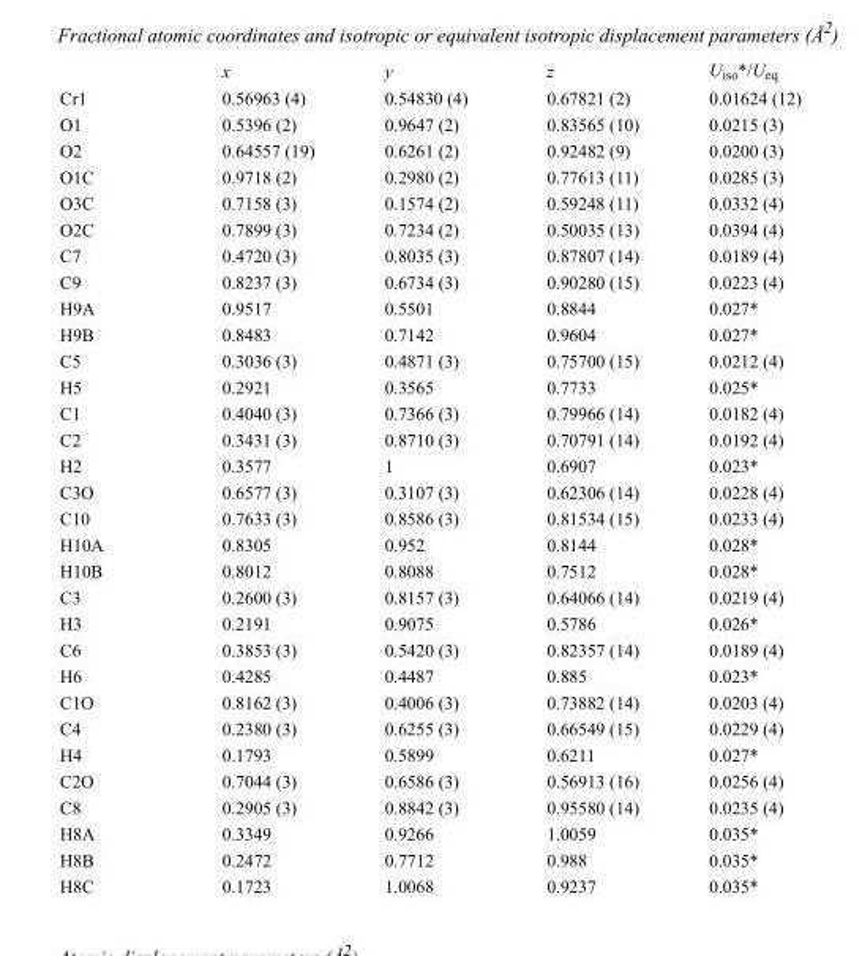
<table><thead><tr><td></td><td>x</td><td>y</td><td>z</td><td>U<sub>iso</sub>*/U<sub>eq</sub></td></tr></thead><tbody><tr><td>Cr1</td><td>0.56963 (4)</td><td>0.54830 (4)</td><td>0.67821 (2)</td><td>0.01624 (12)</td></tr><tr><td>O1</td><td>0.5396 (2)</td><td>0.9647 (2)</td><td>0.83565 (10)</td><td>0.0215 (3)</td></tr><tr><td>O2</td><td>0.64557 (19)</td><td>0.6261 (2)</td><td>0.92482 (9)</td><td>0.0200 (3)</td></tr><tr><td>O1C</td><td>0.9718 (2)</td><td>0.2980 (2)</td><td>0.77613 (11)</td><td>0.0285 (3)</td></tr><tr><td>O3C</td><td>0.7158 (3)</td><td>0.1574 (2)</td><td>0.59248 (11)</td><td>0.0332 (4)</td></tr><tr><td>O2C</td><td>0.7899 (3)</td><td>0.7234 (2)</td><td>0.50035 (13)</td><td>0.0394 (4)</td></tr><tr><td>C7</td><td>0.4720 (3)</td><td>0.8035 (3)</td><td>0.87807 (14)</td><td>0.0189 (4)</td></tr><tr><td>C9</td><td>0.8237 (3)</td><td>0.6734 (3)</td><td>0.90280 (15)</td><td>0.0223 (4)</td></tr><tr><td>H9A</td><td>0.9517</td><td>0.5501</td><td>0.8844</td><td>0.027*</td></tr><tr><td>H9B</td><td>0.8483</td><td>0.7142</td><td>0.9604</td><td>0.027*</td></tr><tr><td>C5</td><td>0.3036 (3)</td><td>0.4871 (3)</td><td>0.75700 (15)</td><td>0.0212 (4)</td></tr><tr><td>H5</td><td>0.2921</td><td>0.3565</td><td>0.7733</td><td>0.025*</td></tr><tr><td>C1</td><td>0.4040 (3)</td><td>0.7366 (3)</td><td>0.79966 (14)</td><td>0.0182 (4)</td></tr><tr><td>C2</td><td>0.3431 (3)</td><td>0.8710 (3)</td><td>0.70791 (14)</td><td>0.0192 (4)</td></tr><tr><td>H2</td><td>0.3577</td><td>1</td><td>0.6907</td><td>0.023*</td></tr><tr><td>C3O</td><td>0.6577 (3)</td><td>0.3107 (3)</td><td>0.62306 (14)</td><td>0.0228 (4)</td></tr><tr><td>C10</td><td>0.7633 (3)</td><td>0.8586 (3)</td><td>0.81534 (15)</td><td>0.0233 (4)</td></tr><tr><td>H10A</td><td>0.8305</td><td>0.952</td><td>0.8144</td><td>0.028*</td></tr><tr><td>H10B</td><td>0.8012</td><td>0.8088</td><td>0.7512</td><td>0.028*</td></tr><tr><td>C3</td><td>0.2600 (3)</td><td>0.8157 (3)</td><td>0.64066 (14)</td><td>0.0219 (4)</td></tr><tr><td>H3</td><td>0.2191</td><td>0.9075</td><td>0.5786</td><td>0.026*</td></tr><tr><td>C6</td><td>0.3853 (3)</td><td>0.5420 (3)</td><td>0.82357 (14)</td><td>0.0189 (4)</td></tr><tr><td>H6</td><td>0.4285</td><td>0.4487</td><td>0.885</td><td>0.023*</td></tr><tr><td>C1O</td><td>0.8162 (3)</td><td>0.4006 (3)</td><td>0.73882 (14)</td><td>0.0203 (4)</td></tr><tr><td>C4</td><td>0.2380 (3)</td><td>0.6255 (3)</td><td>0.66549 (15)</td><td>0.0229 (4)</td></tr><tr><td>H4</td><td>0.1793</td><td>0.5899</td><td>0.6211</td><td>0.027*</td></tr><tr><td>C2O</td><td>0.7044 (3)</td><td>0.6586 (3)</td><td>0.56913 (16)</td><td>0.0256 (4)</td></tr><tr><td>C8</td><td>0.2905 (3)</td><td>0.8842 (3)</td><td>0.95580 (14)</td><td>0.0235 (4)</td></tr><tr><td>H8A</td><td>0.3349</td><td>0.9266</td><td>1.0059</td><td>0.035*</td></tr><tr><td>H8B</td><td>0.2472</td><td>0.7712</td><td>0.988</td><td>0.035*</td></tr><tr><td>H8C</td><td>0.1723</td><td>1.0068</td><td>0.9237</td><td>0.035*</td></tr></tbody></table>